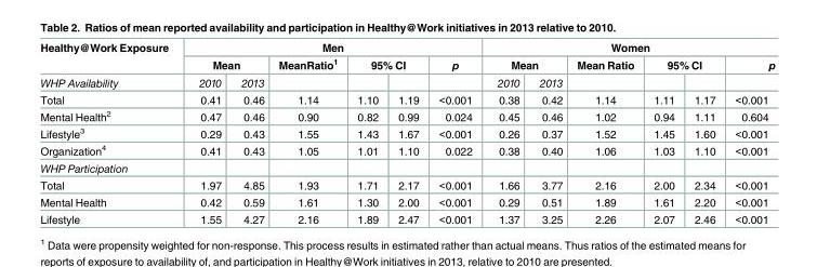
<table><thead><tr><td rowspan="3">Healthy@Work Exposure WHP Availability</td><td colspan="6">Men</td><td colspan="6">Women</td></tr><tr><td colspan="2">Mean</td><td rowspan="2">MeanRatio<sup>1</sup></td><td colspan="2">95% CI</td><td rowspan="2">p</td><td colspan="2">Mean</td><td rowspan="2">Mean Ratio</td><td colspan="2">95% CI</td><td rowspan="2">p</td></tr><tr><td>2010</td><td>2013</td><td></td><td></td><td>2010</td><td>2013</td><td></td><td></td></tr></thead><tbody><tr><td>Total</td><td>0.41</td><td>0.46</td><td>1.14</td><td>1.10</td><td>1.19</td><td>&lt;0.001</td><td>0.38</td><td>0.42</td><td>1.14</td><td>1.11</td><td>1.17</td><td>&lt;0.001</td></tr><tr><td>Mental Health<sup>2</sup></td><td>0.47</td><td>0.46</td><td>0.90</td><td>0.82</td><td>0.99</td><td>0.024</td><td>0.45</td><td>0.46</td><td>1.02</td><td>0.94</td><td>1.11</td><td>0.604</td></tr><tr><td>Lifestyle<sup>3</sup></td><td>0.29</td><td>0.43</td><td>1.55</td><td>1.43</td><td>1.67</td><td>&lt;0.001</td><td>0.26</td><td>0.37</td><td>1.52</td><td>1.45</td><td>1.60</td><td>&lt;0.001</td></tr><tr><td>Organization<sup>4</sup></td><td>0.41</td><td>0.43</td><td>1.05</td><td>1.01</td><td>1.10</td><td>0.022</td><td>0.38</td><td>0.40</td><td>1.06</td><td>1.03</td><td>1.10</td><td>&lt;0.001</td></tr><tr><td colspan="13">WHP Participation</td></tr><tr><td>Total</td><td>1.97</td><td>4.85</td><td>1.93</td><td>1.71</td><td>2.17</td><td>&lt;0.001</td><td>1.66</td><td>3.77</td><td>2.16</td><td>2.00</td><td>2.34</td><td>&lt;0.001</td></tr><tr><td>Mental Health</td><td>0.42</td><td>0.59</td><td>1.61</td><td>1.30</td><td>2.00</td><td>&lt;0.001</td><td>0.29</td><td>0.51</td><td>1.89</td><td>1.61</td><td>2.20</td><td>&lt;0.001</td></tr><tr><td>Lifestyle</td><td>1.55</td><td>4.27</td><td>2.16</td><td>1.89</td><td>2.47</td><td>&lt;0.001</td><td>1.37</td><td>3.25</td><td>2.26</td><td>2.07</td><td>2.46</td><td>&lt;0.001</td></tr></tbody></table>